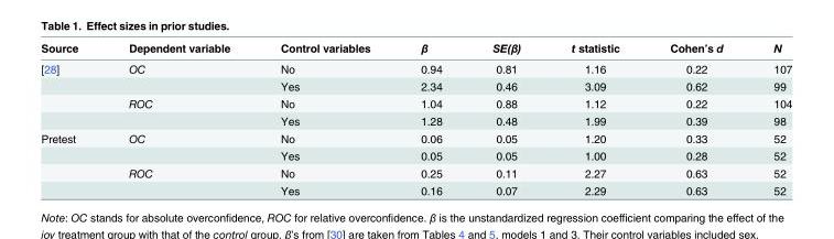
<table><thead><tr><td>Source</td><td>Dependent variable</td><td>Control variables</td><td>β</td><td>SE(β)</td><td>t statistic</td><td>Cohen’s d</td><td>N</td></tr></thead><tbody><tr><td rowspan="4">[28]</td><td>OC</td><td>No</td><td>0.94</td><td>0.81</td><td>1.16</td><td>0.22</td><td>107</td></tr><tr><td></td><td>Yes</td><td>2.34</td><td>0.46</td><td>3.09</td><td>0.62</td><td>99</td></tr><tr><td>ROC</td><td>No</td><td>1.04</td><td>0.88</td><td>1.12</td><td>0.22</td><td>104</td></tr><tr><td></td><td>Yes</td><td>1.28</td><td>0.48</td><td>1.99</td><td>0.39</td><td>98</td></tr><tr><td rowspan="4">Pretest</td><td>OC</td><td>No</td><td>0.06</td><td>0.05</td><td>1.20</td><td>0.33</td><td>52</td></tr><tr><td></td><td>Yes</td><td>0.05</td><td>0.05</td><td>1.00</td><td>0.28</td><td>52</td></tr><tr><td>ROC</td><td>No</td><td>0.25</td><td>0.11</td><td>2.27</td><td>0.63</td><td>52</td></tr><tr><td></td><td>Yes</td><td>0.16</td><td>0.07</td><td>2.29</td><td>0.63</td><td>52</td></tr></tbody></table>